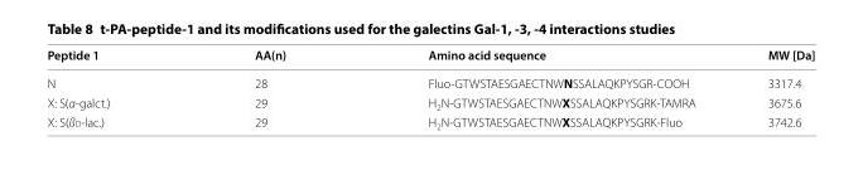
<table><thead><tr><td>Peptide 1</td><td>AA(n)</td><td>Amino acid sequence</td><td>MW [Da]</td></tr></thead><tbody><tr><td>N</td><td>28</td><td>Fluo‑GTWSTAESGAECTNWNSSALAQKPYSGR‑COOH</td><td>3317.4</td></tr><tr><td>X: S(α‑galct.)</td><td>29</td><td>H<sub>2</sub>N‑GTWSTAESGAECTNWXSSALAQKPYSGRK‑TAMRA</td><td>3675.6</td></tr><tr><td>X: S(ßd‑lac.)</td><td>29</td><td>H<sub>2</sub>N‑GTWSTAESGAECTNWXSSALAQKPYSGRK‑Fluo</td><td>3742.6</td></tr></tbody></table>